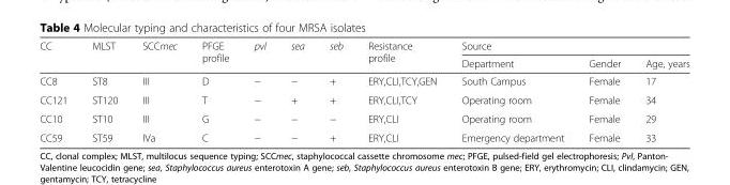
<table><thead><tr><td rowspan="2">CC</td><td rowspan="2">MLST</td><td rowspan="2">SCCmec</td><td rowspan="2">PFGE profile</td><td rowspan="2">pvl</td><td rowspan="2">sea</td><td rowspan="2">seb</td><td rowspan="2">Resistance profile</td><td colspan="3">Source</td></tr><tr><td>Department</td><td>Gender</td><td>Age, years</td></tr></thead><tbody><tr><td>CC8</td><td>ST8</td><td>III</td><td>D</td><td>−</td><td>−</td><td>+</td><td>ERY,CLI,TCY,GEN</td><td>South Campus</td><td>Female</td><td>17</td></tr><tr><td>CC121</td><td>ST120</td><td>III</td><td>T</td><td>−</td><td>+</td><td>+</td><td>ERY,CLI,TCY</td><td>Operating room</td><td>Female</td><td>34</td></tr><tr><td>CC10</td><td>ST10</td><td>III</td><td>G</td><td>−</td><td>−</td><td>−</td><td>ERY,CLI</td><td>Operating room</td><td>Female</td><td>29</td></tr><tr><td>CC59</td><td>ST59</td><td>IVa</td><td>C</td><td>−</td><td>−</td><td>+</td><td>ERY,CLI</td><td>Emergency department</td><td>Female</td><td>33</td></tr></tbody></table>